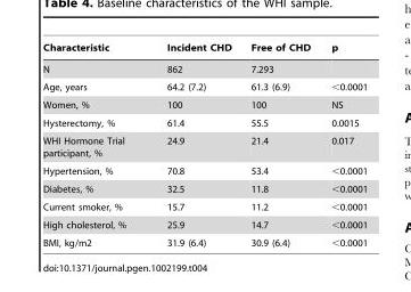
<table><thead><tr><td>Characteristic</td><td>Incident CHD</td><td>Free of CHD</td><td>p</td></tr></thead><tbody><tr><td>N</td><td>862</td><td>7.293</td><td></td></tr><tr><td>Age, years</td><td>64.2 (7.2)</td><td>61.3 (6.9)</td><td>&lt;0.0001</td></tr><tr><td>Women, %</td><td>100</td><td>100</td><td>NS</td></tr><tr><td>Hysterectomy, %</td><td>61.4</td><td>55.5</td><td>0.0015</td></tr><tr><td>WHI Hormone Trial participant, %</td><td>24.9</td><td>21.4</td><td>0.017</td></tr><tr><td>Hypertension, %</td><td>70.8</td><td>53.4</td><td>&lt;0.0001</td></tr><tr><td>Diabetes, %</td><td>32.5</td><td>11.8</td><td>&lt;0.0001</td></tr><tr><td>Current smoker, %</td><td>15.7</td><td>11.2</td><td>&lt;0.0001</td></tr><tr><td>High cholesterol, %</td><td>25.9</td><td>14.7</td><td>&lt;0.0001</td></tr><tr><td>BMI, kg/m2</td><td>31.9 (6.4)</td><td>30.9 (6.4)</td><td>&lt;0.0001</td></tr></tbody></table>